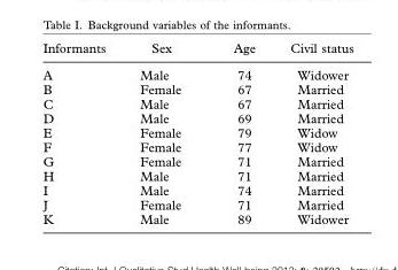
<table><thead><tr><td>Informants</td><td>Sex</td><td>Age</td><td>Civil status</td></tr></thead><tbody><tr><td>A</td><td>Male</td><td>74</td><td>Widower</td></tr><tr><td>B</td><td>Female</td><td>67</td><td>Married</td></tr><tr><td>C</td><td>Male</td><td>67</td><td>Married</td></tr><tr><td>D</td><td>Male</td><td>69</td><td>Married</td></tr><tr><td>E</td><td>Female</td><td>79</td><td>Widow</td></tr><tr><td>F</td><td>Female</td><td>77</td><td>Widow</td></tr><tr><td>G</td><td>Female</td><td>71</td><td>Married</td></tr><tr><td>H</td><td>Male</td><td>71</td><td>Married</td></tr><tr><td>I</td><td>Male</td><td>74</td><td>Married</td></tr><tr><td>J</td><td>Female</td><td>71</td><td>Married</td></tr><tr><td>K</td><td>Male</td><td>89</td><td>Widower</td></tr></tbody></table>